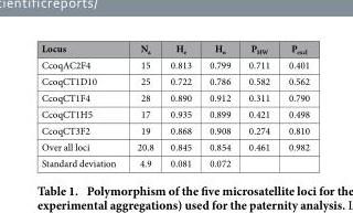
<table><thead><tr><td>Locus</td><td>N<sub>a</sub></td><td>H<sub>e</sub></td><td>H<sub>o</sub></td><td>P<sub>HW</sub></td><td>P<sub>excl</sub></td></tr></thead><tbody><tr><td>CcoqAC2F4</td><td>15</td><td>0.813</td><td>0.799</td><td>0.711</td><td>0.401</td></tr><tr><td>CcoqCT1D10</td><td>25</td><td>0.722</td><td>0.786</td><td>0.582</td><td>0.562</td></tr><tr><td>CcoqCT1F4</td><td>28</td><td>0.890</td><td>0.912</td><td>0.311</td><td>0.790</td></tr><tr><td>CcoqCT1H5</td><td>17</td><td>0.935</td><td>0.899</td><td>0.421</td><td>0.498</td></tr><tr><td>CcoqCT3F2</td><td>19</td><td>0.868</td><td>0.908</td><td>0.274</td><td>0.810</td></tr><tr><td>Over all loci</td><td>20.8</td><td>0.845</td><td>0.854</td><td>0.461</td><td>0.982</td></tr><tr><td>Standard deviation</td><td>4.9</td><td>0.081</td><td>0.072</td><td></td><td></td></tr></tbody></table>